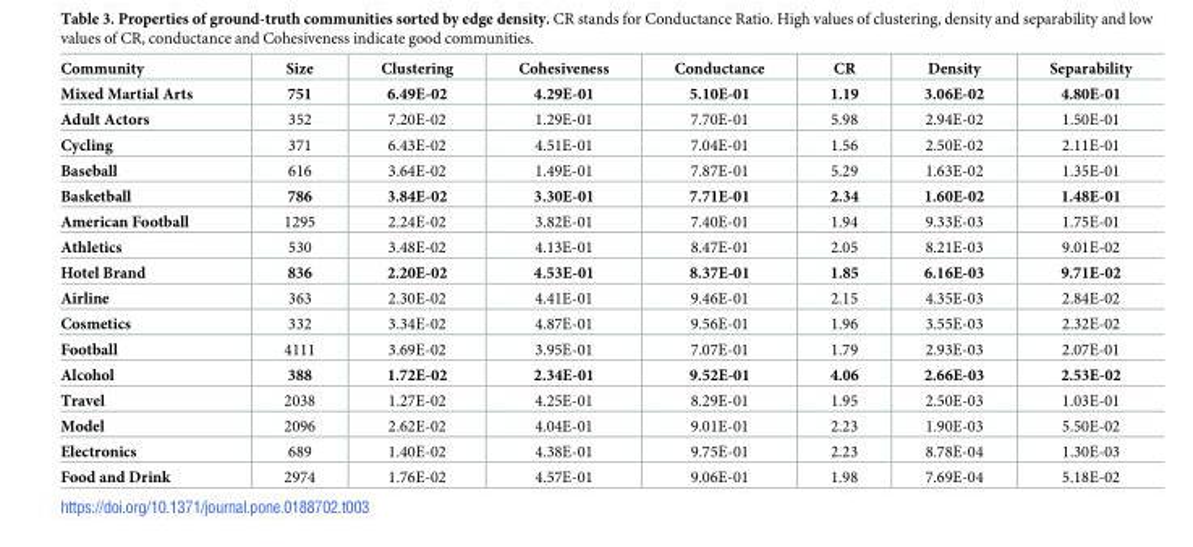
<table><thead><tr><td>Community</td><td>Size</td><td>Clustering</td><td>Cohesiveness</td><td>Conductance</td><td>CR</td><td>Density</td><td>Separability</td></tr></thead><tbody><tr><td>Mixed Martial Arts</td><td>751</td><td>6.49E-02</td><td>4.29E-01</td><td>5.10E-01</td><td>1.19</td><td>3.06E-02</td><td>4.80E-01</td></tr><tr><td>Adult Actors</td><td>352</td><td>7.20E-02</td><td>1.29E-01</td><td>7.70E-01</td><td>5.98</td><td>2.94E-02</td><td>1.50E-01</td></tr><tr><td>Cycling</td><td>371</td><td>6.43E-02</td><td>4.51E-01</td><td>7.04E-01</td><td>1.56</td><td>2.50E-02</td><td>2.11E-01</td></tr><tr><td>Baseball</td><td>616</td><td>3.64E-02</td><td>1.49E-01</td><td>7.87E-01</td><td>5.29</td><td>1.63E-02</td><td>1.35E-01</td></tr><tr><td>Basketball</td><td>786</td><td>3.84E-02</td><td>3.30E-01</td><td>7.71E-01</td><td>2.34</td><td>1.60E-02</td><td>1.48E-01</td></tr><tr><td>American Football</td><td>1295</td><td>2.24E-02</td><td>3.82E-01</td><td>7.40E-01</td><td>1.94</td><td>9.33E-03</td><td>1.75E-01</td></tr><tr><td>Athletics</td><td>530</td><td>3.48E-02</td><td>4.13E-01</td><td>8.47E-01</td><td>2.05</td><td>8.21E-03</td><td>9.01E-02</td></tr><tr><td>Hotel Brand</td><td>836</td><td>2.20E-02</td><td>4.53E-01</td><td>8.37E-01</td><td>1.85</td><td>6.16E-03</td><td>9.71E-02</td></tr><tr><td>Airline</td><td>363</td><td>2.30E-02</td><td>4.41E-01</td><td>9.46E-01</td><td>2.15</td><td>4.35E-03</td><td>2.84E-02</td></tr><tr><td>Cosmetics</td><td>332</td><td>3.34E-02</td><td>4.87E-01</td><td>9.56E-01</td><td>1.96</td><td>3.55E-03</td><td>2.32E-02</td></tr><tr><td>Football</td><td>4111</td><td>3.69E-02</td><td>3.95E-01</td><td>7.07E-01</td><td>1.79</td><td>2.93E-03</td><td>2.07E-01</td></tr><tr><td>Alcohol</td><td>388</td><td>1.72E-02</td><td>2.34E-01</td><td>9.52E-01</td><td>4.06</td><td>2.66E-03</td><td>2.53E-02</td></tr><tr><td>Travel</td><td>2038</td><td>1.27E-02</td><td>4.25E-01</td><td>8.29E-01</td><td>1.95</td><td>2.50E-03</td><td>1.03E-01</td></tr><tr><td>Model</td><td>2096</td><td>2.62E-02</td><td>4.04E-01</td><td>9.01E-01</td><td>2.23</td><td>1.90E-03</td><td>5.50E-02</td></tr><tr><td>Electronics</td><td>689</td><td>1.40E-02</td><td>4.38E-01</td><td>9.75E-01</td><td>2.23</td><td>8.78E-04</td><td>1.30E-03</td></tr><tr><td>Food and Drink</td><td>2974</td><td>1.76E-02</td><td>4.57E-01</td><td>9.06E-01</td><td>1.98</td><td>7.69E-04</td><td>5.18E-02</td></tr></tbody></table>